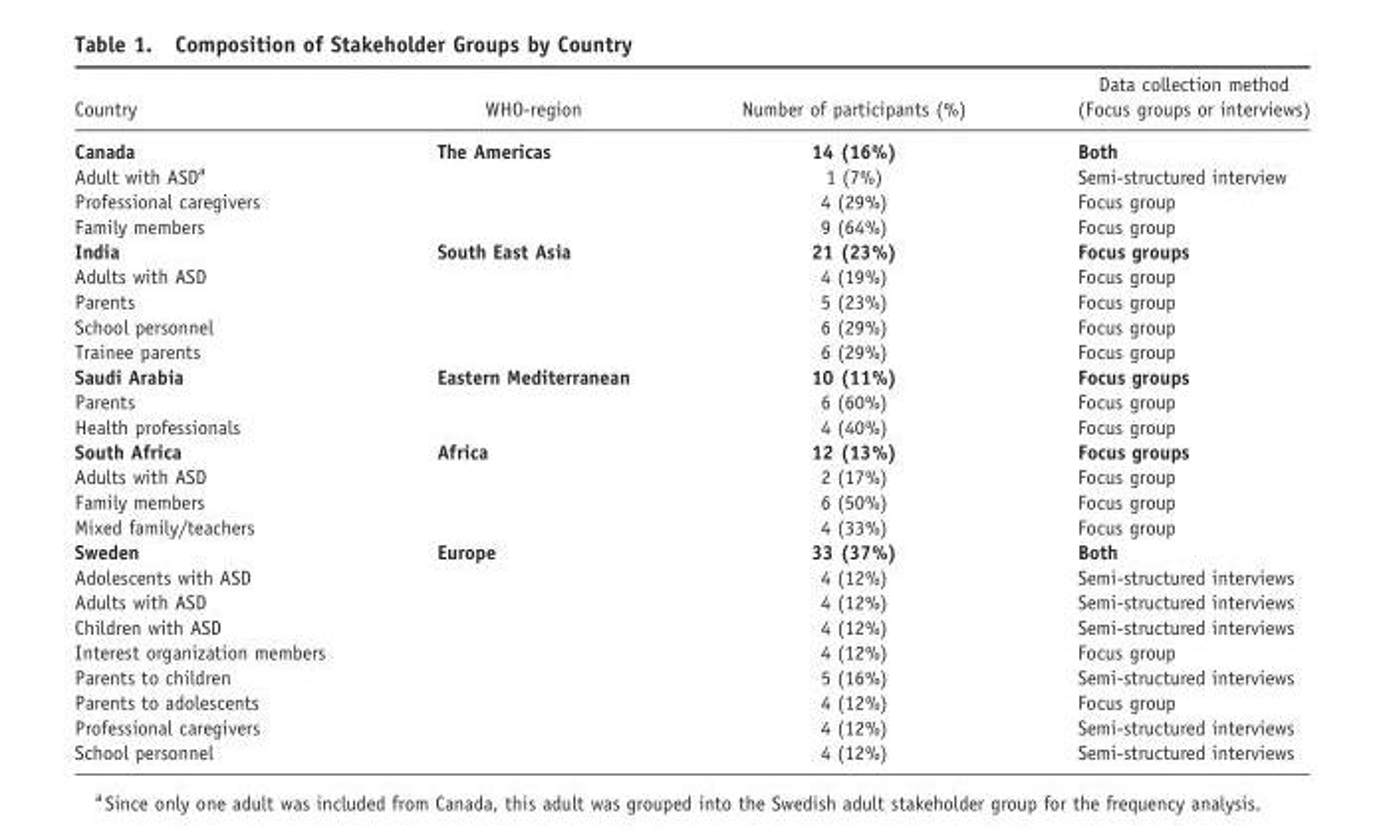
<table><thead><tr><td>Country</td><td>WHO-region</td><td>Number of participants (%)</td><td>Data collection method (Focus groups or interviews)</td></tr></thead><tbody><tr><td>Canada</td><td>The Americas</td><td>14 (16%)</td><td>Both</td></tr><tr><td>Adult with ASD<sup>a</sup></td><td></td><td>1 (7%)</td><td>Semi-structured interview</td></tr><tr><td>Professional caregivers</td><td></td><td>4 (29%)</td><td>Focus group</td></tr><tr><td>Family members</td><td></td><td>9 (64%)</td><td>Focus group</td></tr><tr><td>India</td><td>South East Asia</td><td>21 (23%)</td><td>Focus groups</td></tr><tr><td>Adults with ASD</td><td></td><td>4 (19%)</td><td>Focus group</td></tr><tr><td>Parents</td><td></td><td>5 (23%)</td><td>Focus group</td></tr><tr><td>School personnel</td><td></td><td>6 (29%)</td><td>Focus group</td></tr><tr><td>Trainee parents</td><td></td><td>6 (29%)</td><td>Focus group</td></tr><tr><td>Saudi Arabia</td><td>Eastern Mediterranean</td><td>10 (11%)</td><td>Focus groups</td></tr><tr><td>Parents</td><td></td><td>6 (60%)</td><td>Focus group</td></tr><tr><td>Health professionals</td><td></td><td>4 (40%)</td><td>Focus group</td></tr><tr><td>South Africa</td><td>Africa</td><td>12 (13%)</td><td>Focus groups</td></tr><tr><td>Adults with ASD</td><td></td><td>2 (17%)</td><td>Focus group</td></tr><tr><td>Family members</td><td></td><td>6 (50%)</td><td>Focus group</td></tr><tr><td>Mixed family/teachers</td><td></td><td>4 (33%)</td><td>Focus group</td></tr><tr><td>Sweden</td><td>Europe</td><td>33 (37%)</td><td>Both</td></tr><tr><td>Adolescents with ASD</td><td></td><td>4 (12%)</td><td>Semi-structured interviews</td></tr><tr><td>Adults with ASD</td><td></td><td>4 (12%)</td><td>Semi-structured interviews</td></tr><tr><td>Children with ASD</td><td></td><td>4 (12%)</td><td>Semi-structured interviews</td></tr><tr><td>Interest organization members</td><td></td><td>4 (12%)</td><td>Focus group</td></tr><tr><td>Parents to children</td><td></td><td>5 (16%)</td><td>Semi-structured interviews</td></tr><tr><td>Parents to adolescents</td><td></td><td>4 (12%)</td><td>Focus group</td></tr><tr><td>Professional caregivers</td><td></td><td>4 (12%)</td><td>Semi-structured interviews</td></tr><tr><td>School personnel</td><td></td><td>4 (12%)</td><td>Semi-structured interviews</td></tr></tbody></table>